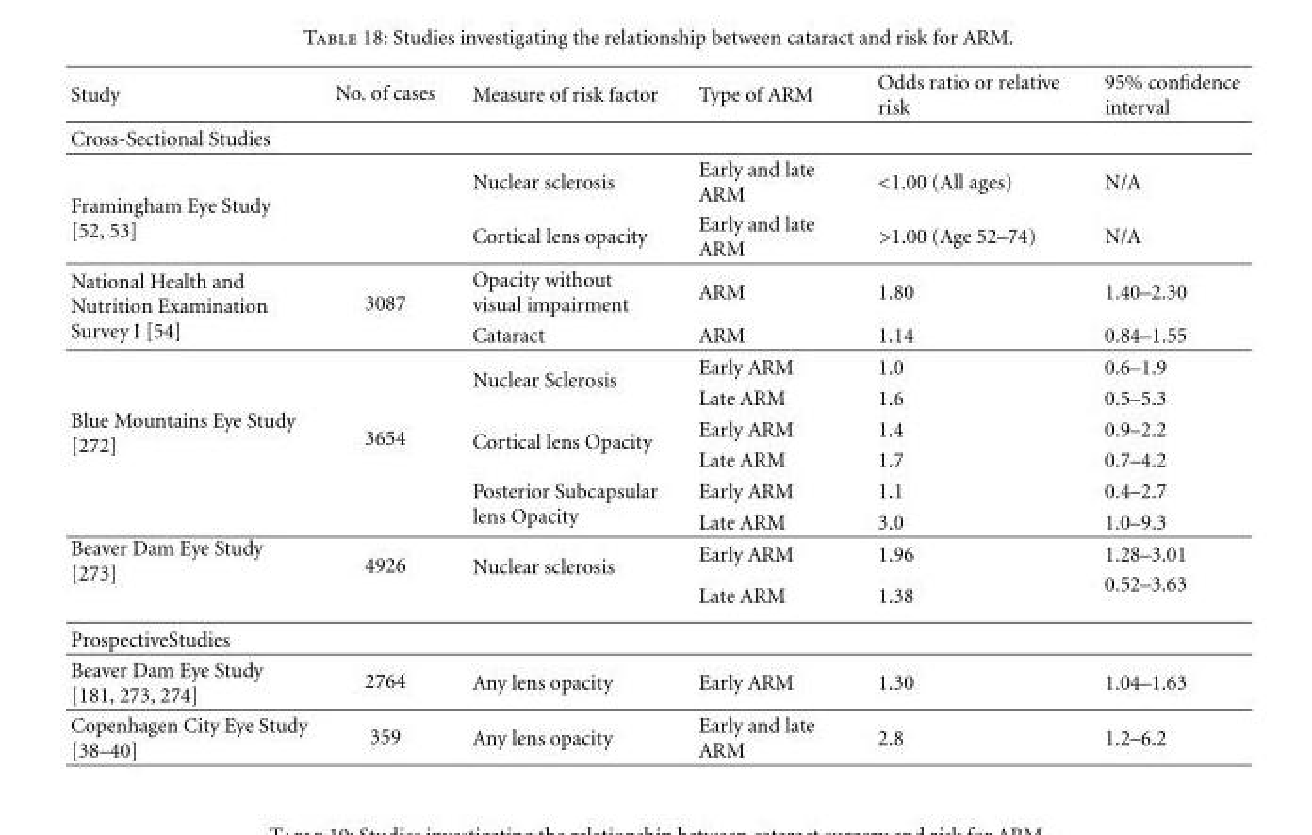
<table><thead><tr><td>Study</td><td>No. of cases</td><td>Measure of risk factor</td><td>Type of ARM</td><td>Odds ratio or relative risk</td><td>95% confidence interval</td></tr></thead><tbody><tr><td colspan="6">Cross-Sectional Studies</td></tr><tr><td rowspan="2">Framingham Eye Study [52, 53]</td><td></td><td>Nuclear sclerosis</td><td>Early and late ARM</td><td>&lt;1.00 (All ages)</td><td>N/A</td></tr><tr><td></td><td>Cortical lens opacity</td><td>Early and late ARM</td><td>&gt;1.00 (Age 52–74)</td><td>N/A</td></tr><tr><td rowspan="2">National Health and Nutrition Examination Survey I [54]</td><td rowspan="2">3087</td><td>Opacity without visual impairment</td><td>ARM</td><td>1.80</td><td>1.40–2.30</td></tr><tr><td>Cataract</td><td>ARM</td><td>1.14</td><td>0.84–1.55</td></tr><tr><td rowspan="6">Blue Mountains Eye Study [272]</td><td rowspan="6">3654</td><td rowspan="2">Nuclear Sclerosis</td><td>Early ARM</td><td>1.0</td><td>0.6–1.9</td></tr><tr><td>Late ARM</td><td>1.6</td><td>0.5–5.3</td></tr><tr><td rowspan="2">Cortical lens Opacity</td><td>Early ARM</td><td>1.4</td><td>0.9–2.2</td></tr><tr><td>Late ARM</td><td>1.7</td><td>0.7–4.2</td></tr><tr><td rowspan="2">Posterior Subcapsular lens Opacity</td><td>Early ARM</td><td>1.1</td><td>0.4–2.7</td></tr><tr><td>Late ARM</td><td>3.0</td><td>1.0–9.3</td></tr><tr><td rowspan="2">Beaver Dam Eye Study [273]</td><td rowspan="2">4926</td><td rowspan="2">Nuclear sclerosis</td><td>Early ARM</td><td>1.96</td><td>1.28–3.01</td></tr><tr><td>Late ARM</td><td>1.38</td><td>0.52–3.63</td></tr><tr><td colspan="6">ProspectiveStudies</td></tr><tr><td>Beaver Dam Eye Study [181, 273, 274]</td><td>2764</td><td>Any lens opacity</td><td>Early ARM</td><td>1.30</td><td>1.04–1.63</td></tr><tr><td>Copenhagen City Eye Study [38–40]</td><td>359</td><td>Any lens opacity</td><td>Early and late ARM</td><td>2.8</td><td>1.2–6.2</td></tr></tbody></table>